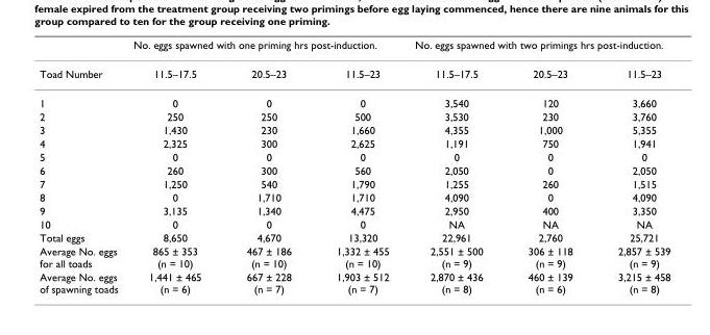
<table><thead><tr><td rowspan="2">Toad Number</td><td colspan="3">No. eggs spawned with one priming hrs post-induction.</td><td colspan="3">No. eggs spawned with two primings hrs post-induction.</td></tr><tr><td>11.5–17.5</td><td>20.5–23</td><td>11.5–23</td><td>11.5–17.5</td><td>20.5–23</td><td>11.5–23</td></tr></thead><tbody><tr><td>1</td><td>0</td><td>0</td><td>0</td><td>3,540</td><td>120</td><td>3,660</td></tr><tr><td>2</td><td>250</td><td>250</td><td>500</td><td>3,530</td><td>230</td><td>3,760</td></tr><tr><td>3</td><td>1,430</td><td>230</td><td>1,660</td><td>4,355</td><td>1,000</td><td>5,355</td></tr><tr><td>4</td><td>2,325</td><td>300</td><td>2,625</td><td>1,191</td><td>750</td><td>1,941</td></tr><tr><td>5</td><td>0</td><td>0</td><td>0</td><td>0</td><td>0</td><td>0</td></tr><tr><td>6</td><td>260</td><td>300</td><td>560</td><td>2,050</td><td>0</td><td>2,050</td></tr><tr><td>7</td><td>1,250</td><td>540</td><td>1,790</td><td>1,255</td><td>260</td><td>1,515</td></tr><tr><td>8</td><td>0</td><td>1,710</td><td>1,710</td><td>4,090</td><td>0</td><td>4,090</td></tr><tr><td>9</td><td>3,135</td><td>1,340</td><td>4,475</td><td>2,950</td><td>400</td><td>3,350</td></tr><tr><td>10</td><td>0</td><td>0</td><td>0</td><td>NA</td><td>NA</td><td>NA</td></tr><tr><td>Total eggs</td><td>8,650</td><td>4,670</td><td>13,320</td><td>22,961</td><td>2,760</td><td>25,721</td></tr><tr><td>Average No. eggs for all toads</td><td>865 ± 353 (n = 10)</td><td>467 ± 186 (n = 10)</td><td>1,332 ± 455 (n = 10)</td><td>2,551 ± 500 (n = 9)</td><td>306 ± 118 (n = 9)</td><td>2,857 ± 539 (n = 9)</td></tr><tr><td>Average No. eggs of spawning toads</td><td>1,441 ± 465 (n = 6)</td><td>667 ± 228 (n = 7)</td><td>1,903 ± 512 (n = 7)</td><td>2,870 ± 436 (n = 8)</td><td>460 ± 139 (n = 6)</td><td>3,215 ± 458 (n = 8)</td></tr></tbody></table>